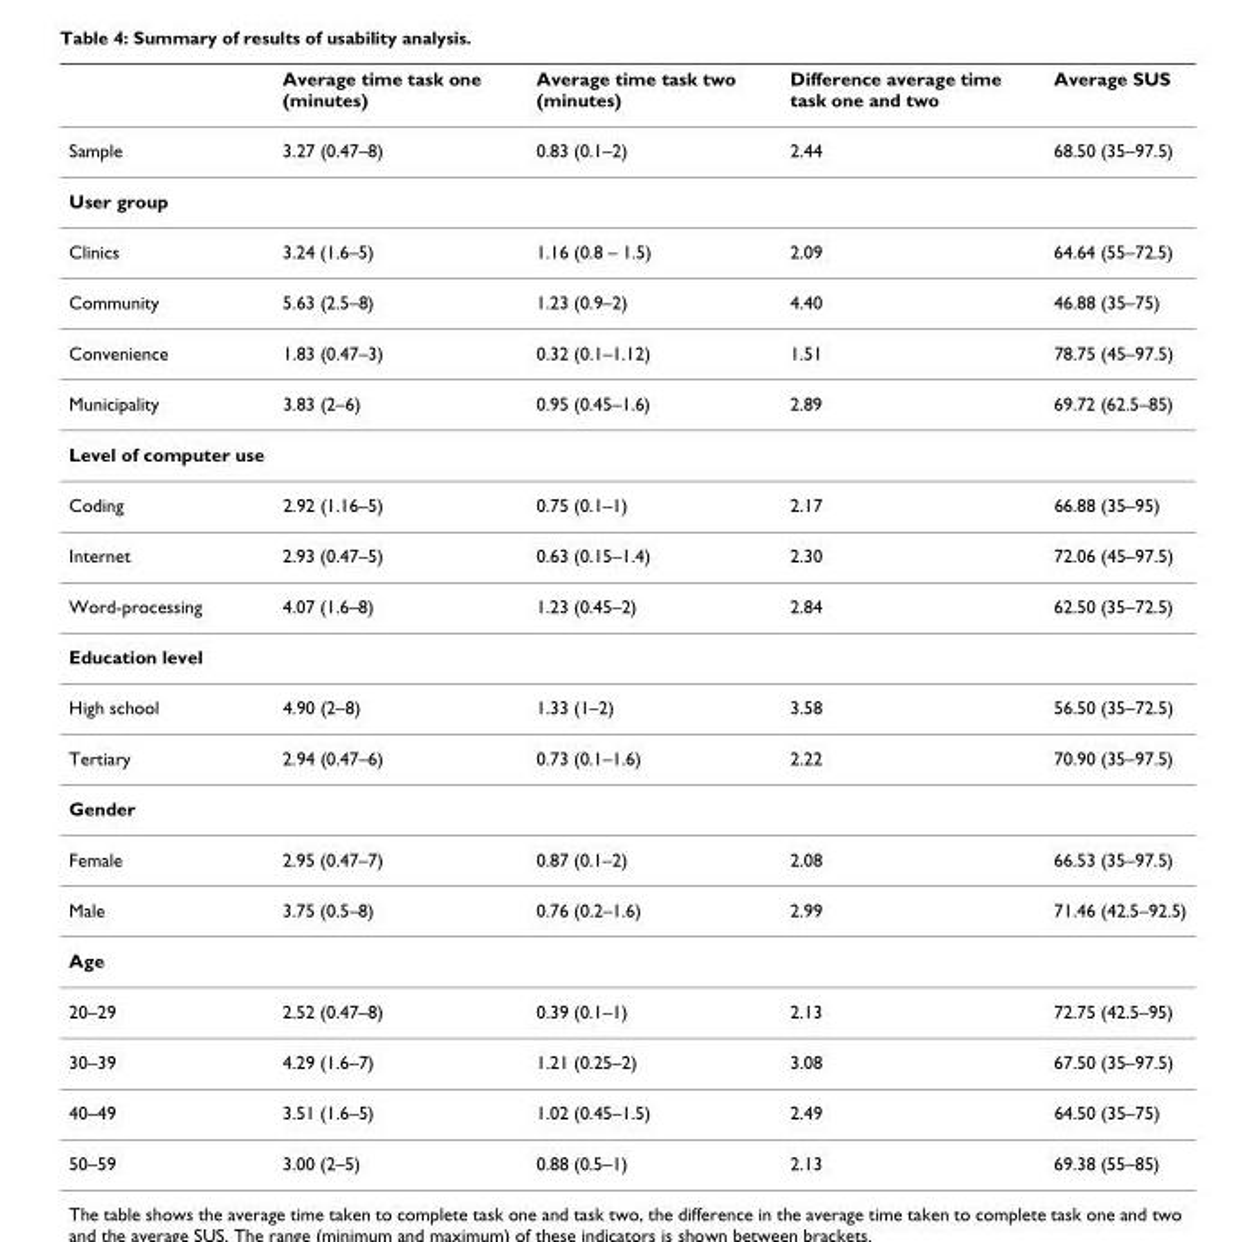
<table><thead><tr><td></td><td>Average time task one (minutes)</td><td>Average time task two (minutes)</td><td>Difference average time task one and two</td><td>Average SUS</td></tr></thead><tbody><tr><td>Sample</td><td>3.27 (0.47–8)</td><td>0.83 (0.1–2)</td><td>2.44</td><td>68.50 (35–97.5)</td></tr><tr><td colspan="5">User group</td></tr><tr><td>Clinics</td><td>3.24 (1.6–5)</td><td>1.16 (0.8 – 1.5)</td><td>2.09</td><td>64.64 (55–72.5)</td></tr><tr><td>Community</td><td>5.63 (2.5–8)</td><td>1.23 (0.9–2)</td><td>4.40</td><td>46.88 (35–75)</td></tr><tr><td>Convenience</td><td>1.83 (0.47–3)</td><td>0.32 (0.1–1.12)</td><td>1.51</td><td>78.75 (45–97.5)</td></tr><tr><td>Municipality</td><td>3.83 (2–6)</td><td>0.95 (0.45–1.6)</td><td>2.89</td><td>69.72 (62.5–85)</td></tr><tr><td colspan="5">Level of computer use</td></tr><tr><td>Coding</td><td>2.92 (1.16–5)</td><td>0.75 (0.1–1)</td><td>2.17</td><td>66.88 (35–95)</td></tr><tr><td>Internet</td><td>2.93 (0.47–5)</td><td>0.63 (0.15–1.4)</td><td>2.30</td><td>72.06 (45–97.5)</td></tr><tr><td>Word-processing</td><td>4.07 (1.6–8)</td><td>1.23 (0.45–2)</td><td>2.84</td><td>62.50 (35–72.5)</td></tr><tr><td colspan="5">Education level</td></tr><tr><td>High school</td><td>4.90 (2–8)</td><td>1.33 (1–2)</td><td>3.58</td><td>56.50 (35–72.5)</td></tr><tr><td>Tertiary</td><td>2.94 (0.47–6)</td><td>0.73 (0.1–1.6)</td><td>2.22</td><td>70.90 (35–97.5)</td></tr><tr><td colspan="5">Gender</td></tr><tr><td>Female</td><td>2.95 (0.47–7)</td><td>0.87 (0.1–2)</td><td>2.08</td><td>66.53 (35–97.5)</td></tr><tr><td>Male</td><td>3.75 (0.5–8)</td><td>0.76 (0.2–1.6)</td><td>2.99</td><td>71.46 (42.5–92.5)</td></tr><tr><td colspan="5">Age</td></tr><tr><td>20–29</td><td>2.52 (0.47–8)</td><td>0.39 (0.1–1)</td><td>2.13</td><td>72.75 (42.5–95)</td></tr><tr><td>30–39</td><td>4.29 (1.6–7)</td><td>1.21 (0.25–2)</td><td>3.08</td><td>67.50 (35–97.5)</td></tr><tr><td>40–49</td><td>3.51 (1.6–5)</td><td>1.02 (0.45–1.5)</td><td>2.49</td><td>64.50 (35–75)</td></tr><tr><td>50–59</td><td>3.00 (2–5)</td><td>0.88 (0.5–1)</td><td>2.13</td><td>69.38 (55–85)</td></tr></tbody></table>